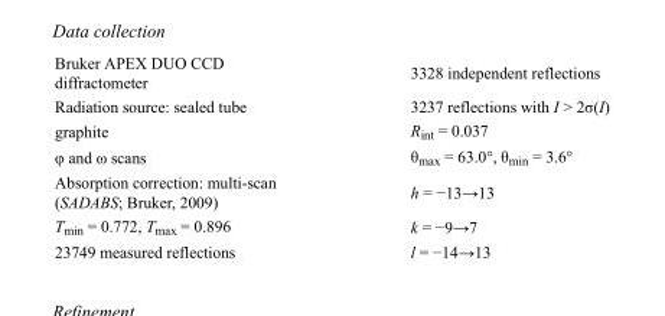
<table><tbody><tr><td>Bruker APEX DUO CCD diffractometer</td><td>3328 independent reflections</td></tr><tr><td>Radiation source: sealed tube</td><td>3237 reflections with I &gt; 2σ(I)</td></tr><tr><td>graphite</td><td>R<sub>int</sub> = 0.037</td></tr><tr><td>φ and ω scans</td><td>θ<sub>max</sub> = 63.0°, θ<sub>min</sub> = 3.6°</td></tr><tr><td>Absorption correction: multi-scan (SADABS; Bruker, 2009)</td><td>h = −13→13</td></tr><tr><td>T<sub>min</sub> = 0.772, T<sub>max</sub> = 0.896</td><td>k = −9→7</td></tr><tr><td>23749 measured reflections</td><td>l = −14→13</td></tr></tbody></table>